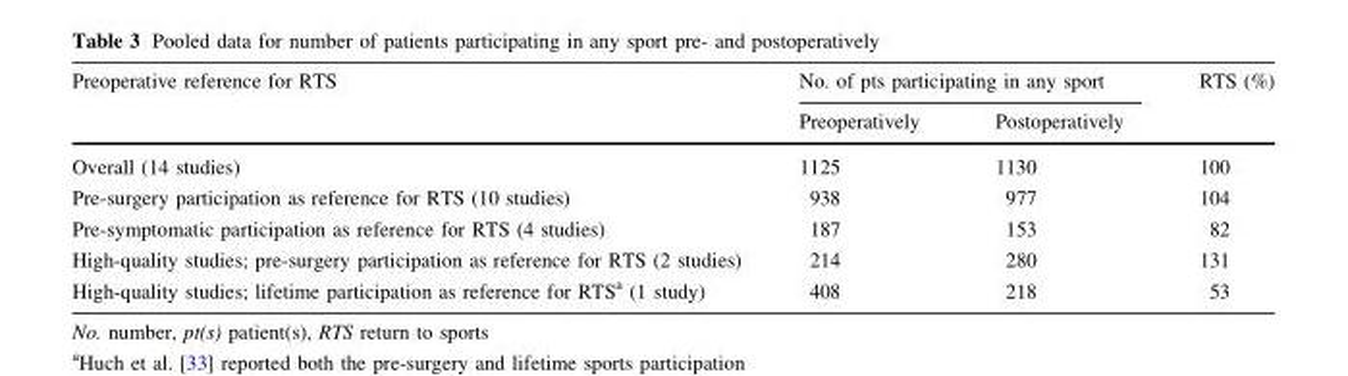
<table><thead><tr><td rowspan="2">Preoperative reference for RTS</td><td colspan="2">No. of pts participating in any sport</td><td rowspan="2">RTS (%)</td></tr><tr><td>Preoperatively</td><td>Postoperatively</td></tr></thead><tbody><tr><td>Overall (14 studies)</td><td>1125</td><td>1130</td><td>100</td></tr><tr><td>Pre-surgery participation as reference for RTS (10 studies)</td><td>938</td><td>977</td><td>104</td></tr><tr><td>Pre-symptomatic participation as reference for RTS (4 studies)</td><td>187</td><td>153</td><td>82</td></tr><tr><td>High-quality studies; pre-surgery participation as reference for RTS (2 studies)</td><td>214</td><td>280</td><td>131</td></tr><tr><td>High-quality studies; lifetime participation as reference for RTS<sup>a</sup> (1 study)</td><td>408</td><td>218</td><td>53</td></tr></tbody></table>